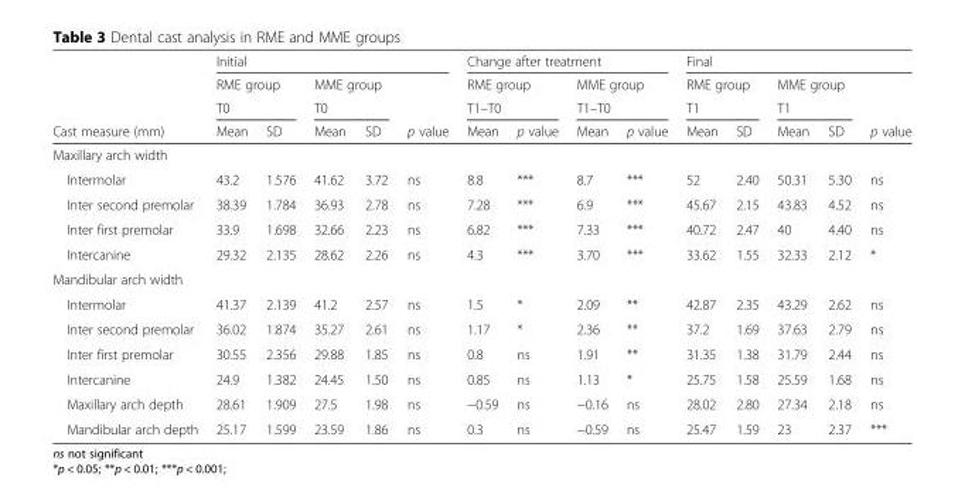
<table><thead><tr><td rowspan="4">Cast measure (mm)</td><td colspan="5">Initial</td><td colspan="4">Change after treatment</td><td colspan="5">Final</td></tr><tr><td rowspan="2" colspan="2">RME group T0</td><td rowspan="2" colspan="2">MME group T0</td><td rowspan="3">p value</td><td rowspan="2" colspan="2">RME group T1–T0</td><td rowspan="2" colspan="2">MME group T1–T0</td><td rowspan="2" colspan="2">RME group T1</td><td rowspan="2" colspan="2">MME group T1</td><td rowspan="3">p value</td></tr><tr></tr><tr><td>Mean</td><td>SD</td><td>Mean</td><td>SD</td><td>Mean</td><td>p value</td><td>Mean</td><td>p value</td><td>Mean</td><td>SD</td><td>Mean</td><td>SD</td></tr></thead><tbody><tr><td colspan="15">Maxillary arch width</td></tr><tr><td>Intermolar</td><td>43.2</td><td>1.576</td><td>41.62</td><td>3.72</td><td>ns</td><td>8.8</td><td>***</td><td>8.7</td><td>***</td><td>52</td><td>2.40</td><td>50.31</td><td>5.30</td><td>ns</td></tr><tr><td>Inter second premolar</td><td>38.39</td><td>1.784</td><td>36.93</td><td>2.78</td><td>ns</td><td>7.28</td><td>***</td><td>6.9</td><td>***</td><td>45.67</td><td>2.15</td><td>43.83</td><td>4.52</td><td>ns</td></tr><tr><td>Inter first premolar</td><td>33.9</td><td>1.698</td><td>32.66</td><td>2.23</td><td>ns</td><td>6.82</td><td>***</td><td>7.33</td><td>***</td><td>40.72</td><td>2.47</td><td>40</td><td>4.40</td><td>ns</td></tr><tr><td>Intercanine</td><td>29.32</td><td>2.135</td><td>28.62</td><td>2.26</td><td>ns</td><td>4.3</td><td>***</td><td>3.70</td><td>***</td><td>33.62</td><td>1.55</td><td>32.33</td><td>2.12</td><td>*</td></tr><tr><td colspan="15">Mandibular arch width</td></tr><tr><td>Intermolar</td><td>41.37</td><td>2.139</td><td>41.2</td><td>2.57</td><td>ns</td><td>1.5</td><td>*</td><td>2.09</td><td>**</td><td>42.87</td><td>2.35</td><td>43.29</td><td>2.62</td><td>ns</td></tr><tr><td>Inter second premolar</td><td>36.02</td><td>1.874</td><td>35.27</td><td>2.61</td><td>ns</td><td>1.17</td><td>*</td><td>2.36</td><td>**</td><td>37.2</td><td>1.69</td><td>37.63</td><td>2.79</td><td>ns</td></tr><tr><td>Inter first premolar</td><td>30.55</td><td>2.356</td><td>29.88</td><td>1.85</td><td>ns</td><td>0.8</td><td>ns</td><td>1.91</td><td>**</td><td>31.35</td><td>1.38</td><td>31.79</td><td>2.44</td><td>ns</td></tr><tr><td>Intercanine</td><td>24.9</td><td>1.382</td><td>24.45</td><td>1.50</td><td>ns</td><td>0.85</td><td>ns</td><td>1.13</td><td>*</td><td>25.75</td><td>1.58</td><td>25.59</td><td>1.68</td><td>ns</td></tr><tr><td>Maxillary arch depth</td><td>28.61</td><td>1.909</td><td>27.5</td><td>1.98</td><td>ns</td><td>−0.59</td><td>ns</td><td>−0.16</td><td>ns</td><td>28.02</td><td>2.80</td><td>27.34</td><td>2.18</td><td>ns</td></tr><tr><td>Mandibular arch depth</td><td>25.17</td><td>1.599</td><td>23.59</td><td>1.86</td><td>ns</td><td>0.3</td><td>ns</td><td>−0.59</td><td>ns</td><td>25.47</td><td>1.59</td><td>23</td><td>2.37</td><td>***</td></tr></tbody></table>